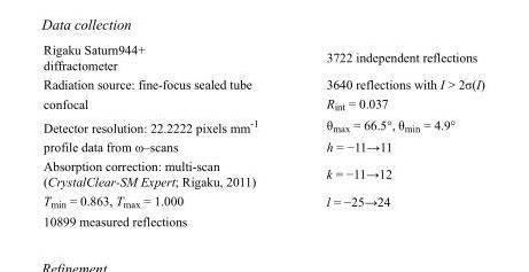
<table><tbody><tr><td>Rigaku Saturn944+ diffractometer</td><td>3722 independent reflections</td></tr><tr><td>Radiation source: fine-focus sealed tube</td><td>3640 reflections with I &gt; 2σ(I)</td></tr><tr><td>confocal</td><td>R<sub>int</sub> = 0.037</td></tr><tr><td>Detector resolution: 22.2222 pixels mm<sup>-1</sup></td><td>θ<sub>max</sub> = 66.5°, θ<sub>min</sub> = 4.9°</td></tr><tr><td>profile data from ω–scans</td><td>h = −11→11</td></tr><tr><td>Absorption correction: multi-scan (CrystalClear-SM Expert; Rigaku, 2011)</td><td>k = −11→12</td></tr><tr><td>T<sub>min</sub> = 0.863, T<sub>max</sub> = 1.000</td><td>l = −25→24</td></tr><tr><td>10899 measured reflections</td><td></td></tr></tbody></table>